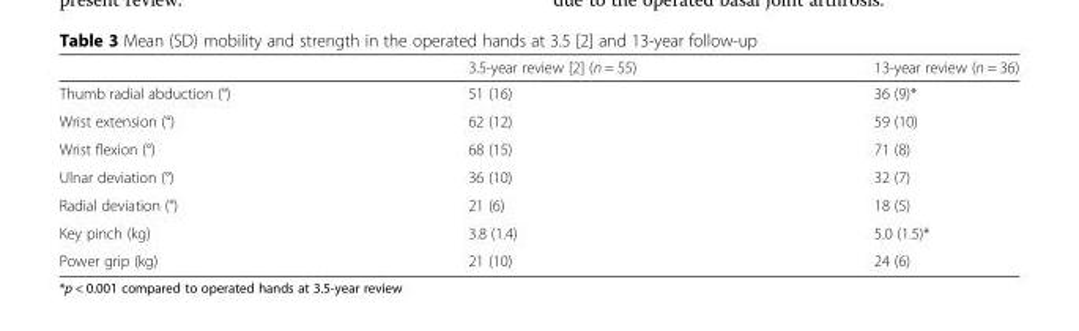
<table><thead><tr><td></td><td>3.5-year review [2] (n = 55)</td><td>13-year review (n = 36)</td></tr></thead><tbody><tr><td>Thumb radial abduction (°)</td><td>51 (16)</td><td>36 (9)*</td></tr><tr><td>Wrist extension (°)</td><td>62 (12)</td><td>59 (10)</td></tr><tr><td>Wrist flexion (°)</td><td>68 (15)</td><td>71 (8)</td></tr><tr><td>Ulnar deviation (°)</td><td>36 (10)</td><td>32 (7)</td></tr><tr><td>Radial deviation (°)</td><td>21 (6)</td><td>18 (5)</td></tr><tr><td>Key pinch (kg)</td><td>3.8 (1.4)</td><td>5.0 (1.5)*</td></tr><tr><td>Power grip (kg)</td><td>21 (10)</td><td>24 (6)</td></tr></tbody></table>